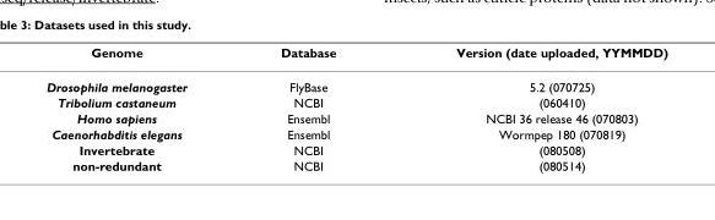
<table><thead><tr><td>Genome</td><td>Database</td><td>Version (date uploaded, YYMMDD)</td></tr></thead><tbody><tr><td>Drosophila melanogaster</td><td>FlyBase</td><td>5.2 (070725)</td></tr><tr><td>Tribolium castaneum</td><td>NCBI</td><td>(060410)</td></tr><tr><td>Homo sapiens</td><td>Ensembl</td><td>NCBI 36 release 46 (070803)</td></tr><tr><td>Caenorhabditis elegans</td><td>Ensembl</td><td>Wormpep 180 (070819)</td></tr><tr><td>Invertebrate</td><td>NCBI</td><td>(080508)</td></tr><tr><td>non-redundant</td><td>NCBI</td><td>(080514)</td></tr></tbody></table>